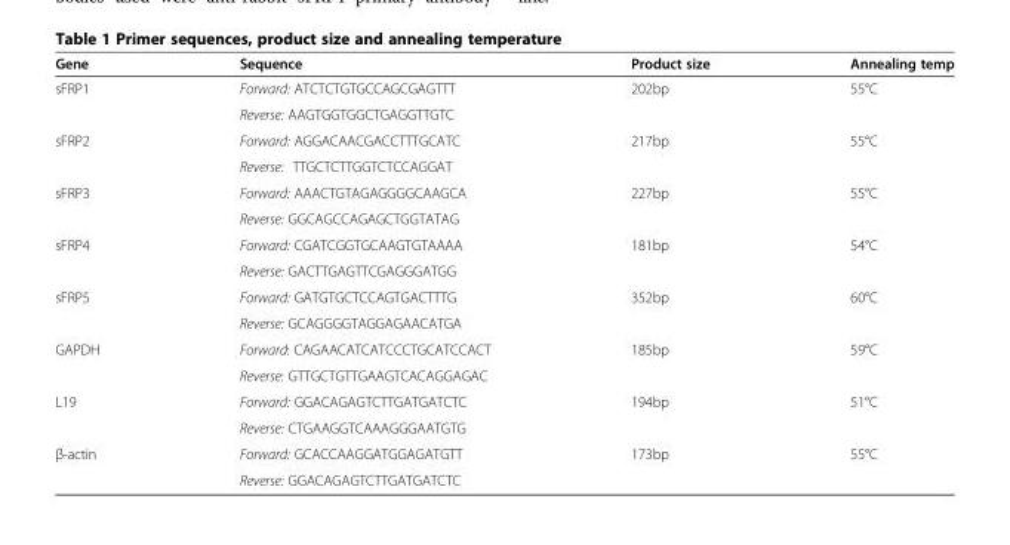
<table><thead><tr><td>Gene</td><td>Sequence</td><td>Product size</td><td>Annealing temp</td></tr></thead><tbody><tr><td rowspan="2">sFRP1</td><td>Forward: ATCTCTGTGCCAGCGAGTTT</td><td rowspan="2">202bp</td><td rowspan="2">55°C</td></tr><tr><td>Reverse: AAGTGGTGGCTGAGGTTGTC</td></tr><tr><td rowspan="2">sFRP2</td><td>Forward: AGGACAACGACCTTTGCATC</td><td rowspan="2">217bp</td><td rowspan="2">55°C</td></tr><tr><td>Reverse: TTGCTCTTGGTCTCCAGGAT</td></tr><tr><td rowspan="2">sFRP3</td><td>Forward: AAACTGTAGAGGGGCAAGCA</td><td rowspan="2">227bp</td><td rowspan="2">55°C</td></tr><tr><td>Reverse: GGCAGCCAGAGCTGGTATAG</td></tr><tr><td rowspan="2">sFRP4</td><td>Forward: CGATCGGTGCAAGTGTAAAA</td><td rowspan="2">181bp</td><td rowspan="2">54°C</td></tr><tr><td>Reverse: GACTTGAGTTCGAGGGATGG</td></tr><tr><td rowspan="2">sFRP5</td><td>Forward: GATGTGCTCCAGTGACTTTG</td><td rowspan="2">352bp</td><td rowspan="2">60°C</td></tr><tr><td>Reverse: GCAGGGGTAGGAGAACATGA</td></tr><tr><td rowspan="2">GAPDH</td><td>Forward: CAGAACATCATCCCTGCATCCACT</td><td rowspan="2">185bp</td><td rowspan="2">59°C</td></tr><tr><td>Reverse: GTTGCTGTTGAAGTCACAGGAGAC</td></tr><tr><td rowspan="2">L19</td><td>Forward: GGACAGAGTCTTGATGATCTC</td><td rowspan="2">194bp</td><td rowspan="2">51°C</td></tr><tr><td>Reverse: CTGAAGGTCAAAGGGAATGTG</td></tr><tr><td rowspan="2">β-actin</td><td>Forward: GCACCAAGGATGGAGATGTT</td><td>173bp</td><td>55°C</td></tr><tr><td>Reverse: GGACAGAGTCTTGATGATCTC</td><td></td><td></td></tr></tbody></table>